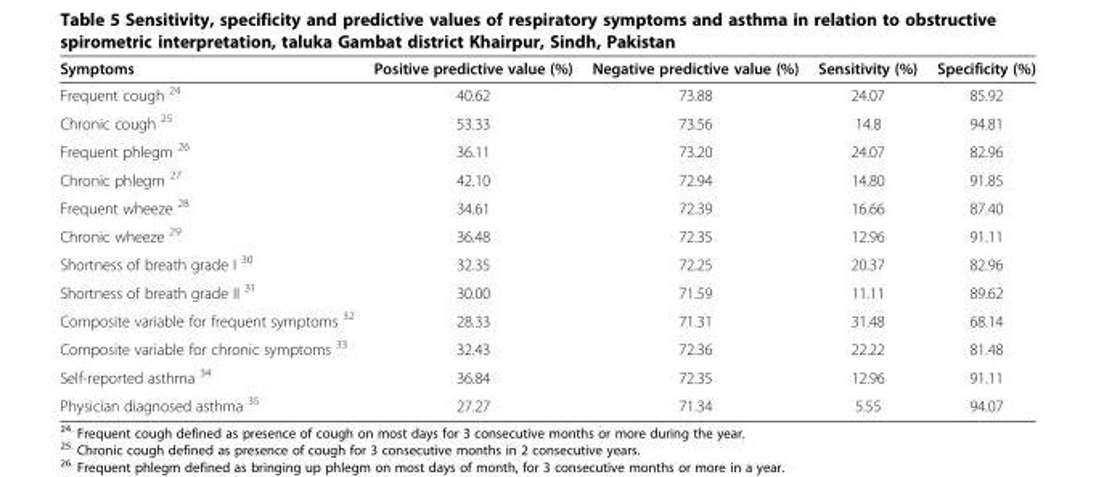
<table><thead><tr><td>Symptoms</td><td>Positive predictive value (%)</td><td>Negative predictive value (%)</td><td>Sensitivity (%)</td><td>Specificity (%)</td></tr></thead><tbody><tr><td>Frequent cough <sup>24</sup></td><td>40.62</td><td>73.88</td><td>24.07</td><td>85.92</td></tr><tr><td>Chronic cough <sup>25</sup></td><td>53.33</td><td>73.56</td><td>14.8</td><td>94.81</td></tr><tr><td>Frequent phlegm <sup>26</sup></td><td>36.11</td><td>73.20</td><td>24.07</td><td>82.96</td></tr><tr><td>Chronic phlegm <sup>27</sup></td><td>42.10</td><td>72.94</td><td>14.80</td><td>91.85</td></tr><tr><td>Frequent wheeze <sup>28</sup></td><td>34.61</td><td>72.39</td><td>16.66</td><td>87.40</td></tr><tr><td>Chronic wheeze <sup>29</sup></td><td>36.48</td><td>72.35</td><td>12.96</td><td>91.11</td></tr><tr><td>Shortness of breath grade I <sup>30</sup></td><td>32.35</td><td>72.25</td><td>20.37</td><td>82.96</td></tr><tr><td>Shortness of breath grade II <sup>31</sup></td><td>30.00</td><td>71.59</td><td>11.11</td><td>89.62</td></tr><tr><td>Composite variable for frequent symptoms <sup>32</sup></td><td>28.33</td><td>71.31</td><td>31.48</td><td>68.14</td></tr><tr><td>Composite variable for chronic symptoms <sup>33</sup></td><td>32.43</td><td>72.36</td><td>22.22</td><td>81.48</td></tr><tr><td>Self-reported asthma <sup>34</sup></td><td>36.84</td><td>72.35</td><td>12.96</td><td>91.11</td></tr><tr><td>Physician diagnosed asthma <sup>35</sup></td><td>27.27</td><td>71.34</td><td>5.55</td><td>94.07</td></tr></tbody></table>